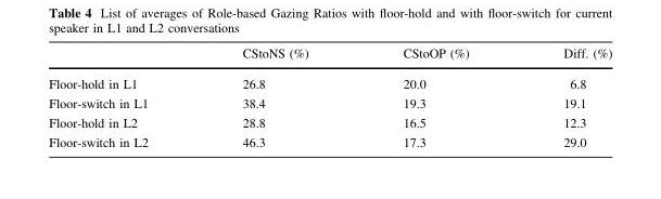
<table><thead><tr><td></td><td>CStoNS (%)</td><td>CStoOP (%)</td><td>Diff. (%)</td></tr></thead><tbody><tr><td>Floor-hold in L1</td><td>26.8</td><td>20.0</td><td>6.8</td></tr><tr><td>Floor-switch in L1</td><td>38.4</td><td>19.3</td><td>19.1</td></tr><tr><td>Floor-hold in L2</td><td>28.8</td><td>16.5</td><td>12.3</td></tr><tr><td>Floor-switch in L2</td><td>46.3</td><td>17.3</td><td>29.0</td></tr></tbody></table>